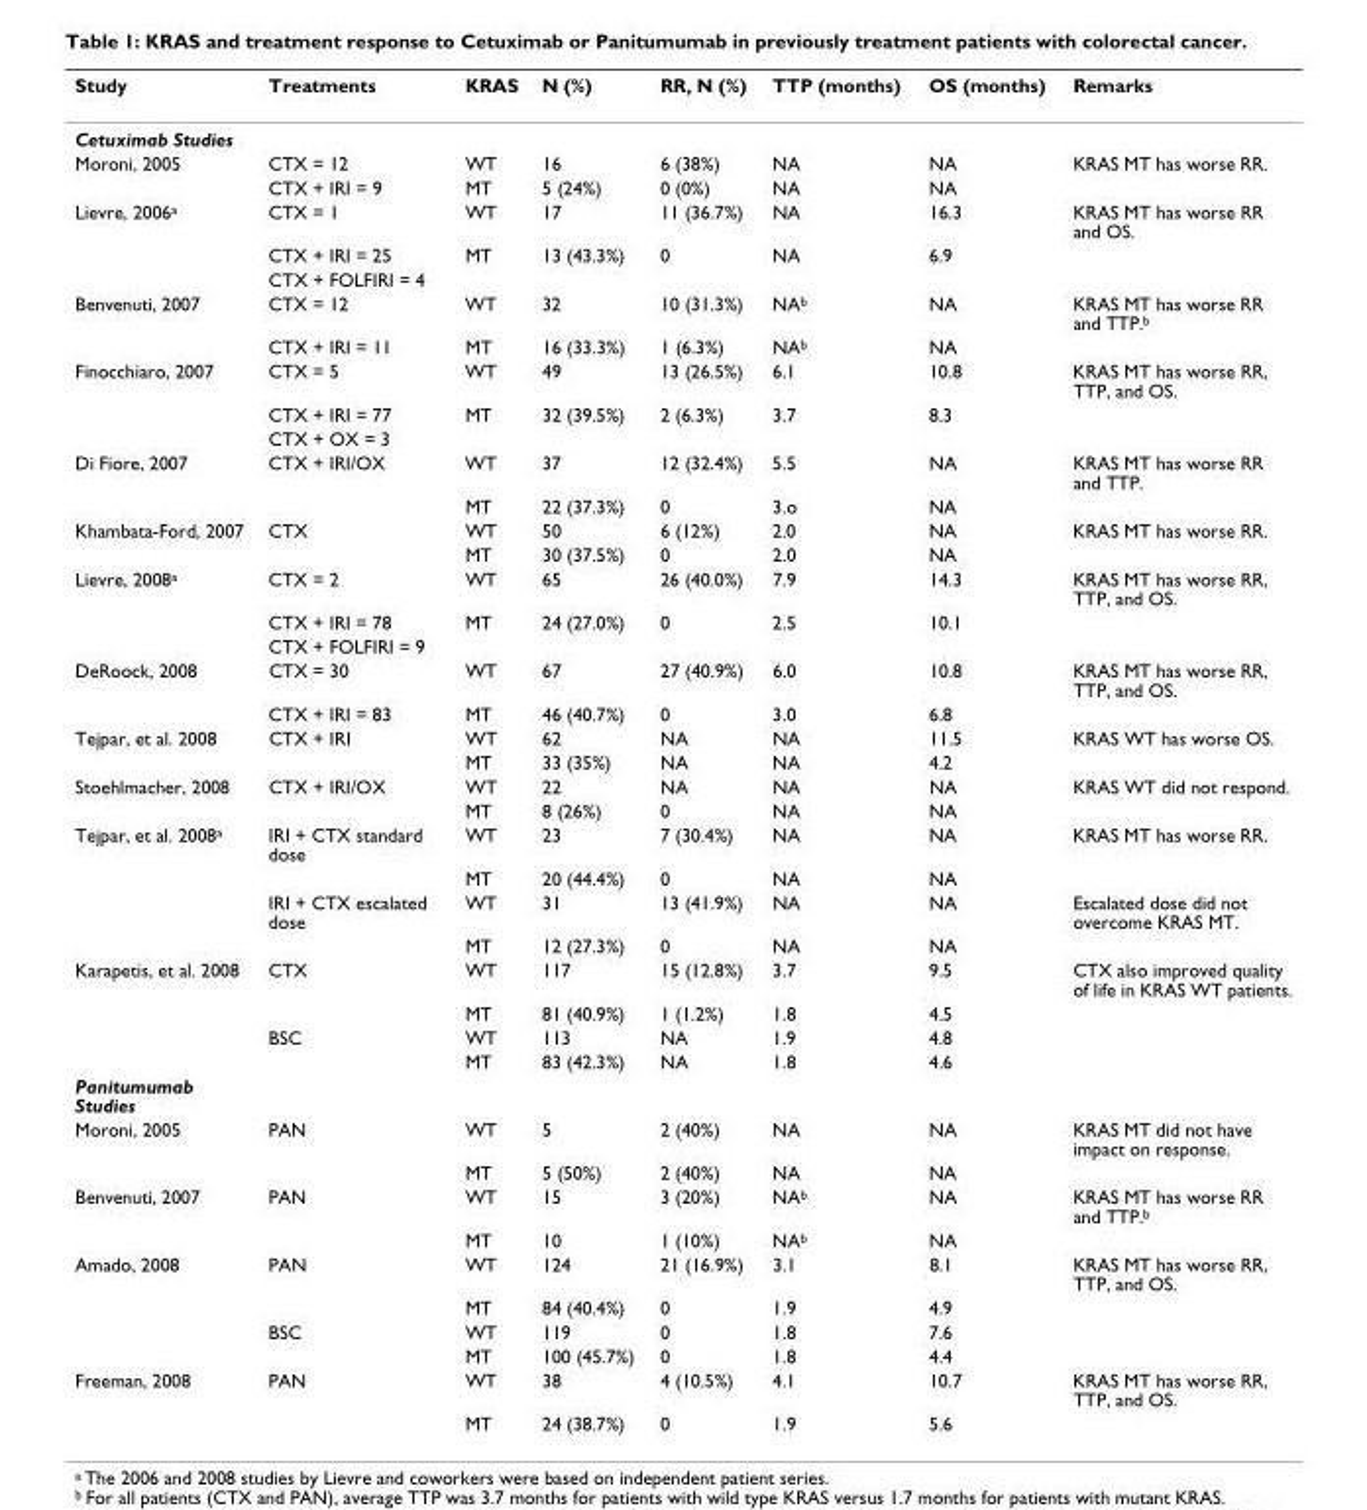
<table><thead><tr><td>Study</td><td>Treatments</td><td>KRAS</td><td>N (%)</td><td>RR, N (%)</td><td>TTP (months)</td><td>OS (months)</td><td>Remarks</td></tr></thead><tbody><tr><td colspan="8">Cetuximab Studies</td></tr><tr><td rowspan="2">Moroni, 2005</td><td>CTX = 12</td><td>WT</td><td>16</td><td>6 (38%)</td><td>NA</td><td>NA</td><td>KRAS MT has worse RR.</td></tr><tr><td>CTX + IRI = 9</td><td>MT</td><td>5 (24%)</td><td>0 (0%)</td><td>NA</td><td>NA</td><td></td></tr><tr><td rowspan="3">Lievre, 2006<sup>a</sup></td><td>CTX = 1</td><td>WT</td><td>17</td><td>11 (36.7%)</td><td>NA</td><td>16.3</td><td>KRAS MT has worse RR and OS.</td></tr><tr><td>CTX + IRI = 25</td><td>MT</td><td>13 (43.3%)</td><td>0</td><td>NA</td><td>6.9</td><td></td></tr><tr><td>CTX + FOLFIRI = 4</td><td></td><td></td><td></td><td></td><td></td><td></td></tr><tr><td rowspan="2">Benvenuti, 2007</td><td>CTX = 12</td><td>WT</td><td>32</td><td>10 (31.3%)</td><td>NA<sup>b</sup></td><td>NA</td><td>KRAS MT has worse RR and TTP.<sup>b</sup></td></tr><tr><td>CTX + IRI = 11</td><td>MT</td><td>16 (33.3%)</td><td>1 (6.3%)</td><td>NA<sup>b</sup></td><td>NA</td><td></td></tr><tr><td rowspan="3">Finocchiaro, 2007</td><td>CTX = 5</td><td>WT</td><td>49</td><td>13 (26.5%)</td><td>6.1</td><td>10.8</td><td>KRAS MT has worse RR, TTP, and OS.</td></tr><tr><td>CTX + IRI = 77</td><td>MT</td><td>32 (39.5%)</td><td>2 (6.3%)</td><td>3.7</td><td>8.3</td><td></td></tr><tr><td>CTX + OX = 3</td><td></td><td></td><td></td><td></td><td></td><td></td></tr><tr><td rowspan="2">Di Fiore, 2007</td><td>CTX + IRI/OX</td><td>WT</td><td>37</td><td>12 (32.4%)</td><td>5.5</td><td>NA</td><td>KRAS MT has worse RR and TTP.</td></tr><tr><td></td><td>MT</td><td>22 (37.3%)</td><td>0</td><td>3.o</td><td>NA</td><td></td></tr><tr><td rowspan="2">Khambata-Ford, 2007</td><td>CTX</td><td>WT</td><td>50</td><td>6 (12%)</td><td>2.0</td><td>NA</td><td>KRAS MT has worse RR.</td></tr><tr><td></td><td>MT</td><td>30 (37.5%)</td><td>0</td><td>2.0</td><td>NA</td><td></td></tr><tr><td rowspan="3">Lievre, 2008<sup>a</sup></td><td>CTX = 2</td><td>WT</td><td>65</td><td>26 (40.0%)</td><td>7.9</td><td>14.3</td><td>KRAS MT has worse RR, TTP, and OS.</td></tr><tr><td>CTX + IRI = 78</td><td>MT</td><td>24 (27.0%)</td><td>0</td><td>2.5</td><td>10.1</td><td></td></tr><tr><td>CTX + FOLFIRI = 9</td><td></td><td></td><td></td><td></td><td></td><td></td></tr><tr><td rowspan="2">DeRoock, 2008</td><td>CTX = 30</td><td>WT</td><td>67</td><td>27 (40.9%)</td><td>6.0</td><td>10.8</td><td>KRAS MT has worse RR, TTP, and OS.</td></tr><tr><td>CTX + IRI = 83</td><td>MT</td><td>46 (40.7%)</td><td>0</td><td>3.0</td><td>6.8</td><td></td></tr><tr><td rowspan="2">Tejpar, et al. 2008</td><td>CTX + IRI</td><td>WT</td><td>62</td><td>NA</td><td>NA</td><td>11.5</td><td>KRAS WT has worse OS.</td></tr><tr><td></td><td>MT</td><td>33 (35%)</td><td>NA</td><td>NA</td><td>4.2</td><td></td></tr><tr><td rowspan="2">Stoehlmacher, 2008</td><td>CTX + IRI/OX</td><td>WT</td><td>22</td><td>NA</td><td>NA</td><td>NA</td><td>KRAS WT did not respond.</td></tr><tr><td></td><td>MT</td><td>8 (26%)</td><td>0</td><td>NA</td><td>NA</td><td></td></tr><tr><td rowspan="4">Tejpar, et al. 2008<sup>a</sup></td><td>IRI + CTX standard dose</td><td>WT</td><td>23</td><td>7 (30.4%)</td><td>NA</td><td>NA</td><td>KRAS MT has worse RR.</td></tr><tr><td></td><td>MT</td><td>20 (44.4%)</td><td>0</td><td>NA</td><td>NA</td><td></td></tr><tr><td>IRI + CTX escalated dose</td><td>WT</td><td>31</td><td>13 (41.9%)</td><td>NA</td><td>NA</td><td>Escalated dose did not overcome KRAS MT.</td></tr><tr><td></td><td>MT</td><td>12 (27.3%)</td><td>0</td><td>NA</td><td>NA</td><td></td></tr><tr><td rowspan="4">Karapetis, et al. 2008</td><td>CTX</td><td>WT</td><td>117</td><td>15 (12.8%)</td><td>3.7</td><td>9.5</td><td>CTX also improved quality of life in KRAS WT patients.</td></tr><tr><td></td><td>MT</td><td>81 (40.9%)</td><td>1 (1.2%)</td><td>1.8</td><td>4.5</td><td></td></tr><tr><td>BSC</td><td>WT</td><td>113</td><td>NA</td><td>1.9</td><td>4.8</td><td></td></tr><tr><td></td><td>MT</td><td>83 (42.3%)</td><td>NA</td><td>1.8</td><td>4.6</td><td></td></tr><tr><td colspan="8">Panitumumab Studies</td></tr><tr><td rowspan="2">Moroni, 2005</td><td>PAN</td><td>WT</td><td>5</td><td>2 (40%)</td><td>NA</td><td>NA</td><td>KRAS MT did not have impact on response.</td></tr><tr><td></td><td>MT</td><td>5 (50%)</td><td>2 (40%)</td><td>NA</td><td>NA</td><td></td></tr><tr><td rowspan="2">Benvenuti, 2007</td><td>PAN</td><td>WT</td><td>15</td><td>3 (20%)</td><td>NA<sup>b</sup></td><td>NA</td><td>KRAS MT has worse RR and TTP.<sup>b</sup></td></tr><tr><td></td><td>MT</td><td>10</td><td>1 (10%)</td><td>NA<sup>b</sup></td><td>NA</td><td></td></tr><tr><td rowspan="4">Amado, 2008</td><td>PAN</td><td>WT</td><td>124</td><td>21 (16.9%)</td><td>3.1</td><td>8.1</td><td>KRAS MT has worse RR, TTP, and OS.</td></tr><tr><td></td><td>MT</td><td>84 (40.4%)</td><td>0</td><td>1.9</td><td>4.9</td><td></td></tr><tr><td>BSC</td><td>WT</td><td>119</td><td>0</td><td>1.8</td><td>7.6</td><td></td></tr><tr><td></td><td>MT</td><td>100 (45.7%)</td><td>0</td><td>1.8</td><td>4.4</td><td></td></tr><tr><td rowspan="2">Freeman, 2008</td><td>PAN</td><td>WT</td><td>38</td><td>4 (10.5%)</td><td>4.1</td><td>10.7</td><td>KRAS MT has worse RR, TTP, and OS.</td></tr><tr><td></td><td>MT</td><td>24 (38.7%)</td><td>0</td><td>1.9</td><td>5.6</td><td></td></tr></tbody></table>